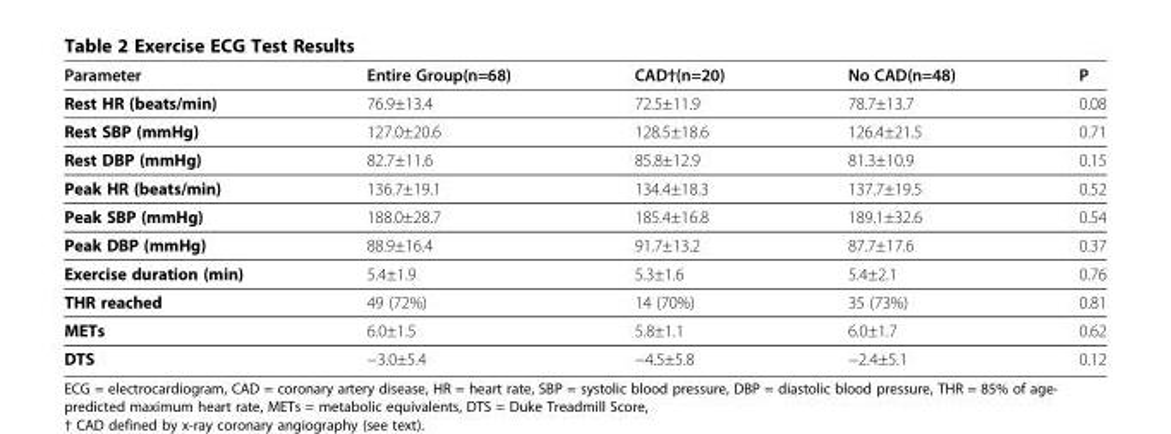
<table><thead><tr><td>Parameter</td><td>Entire Group(n=68)</td><td>CAD†(n=20)</td><td>No CAD(n=48)</td><td>P</td></tr></thead><tbody><tr><td>Rest HR (beats/min)</td><td>76.9±13.4</td><td>72.5±11.9</td><td>78.7±13.7</td><td>0.08</td></tr><tr><td>Rest SBP (mmHg)</td><td>127.0±20.6</td><td>128.5±18.6</td><td>126.4±21.5</td><td>0.71</td></tr><tr><td>Rest DBP (mmHg)</td><td>82.7±11.6</td><td>85.8±12.9</td><td>81.3±10.9</td><td>0.15</td></tr><tr><td>Peak HR (beats/min)</td><td>136.7±19.1</td><td>134.4±18.3</td><td>137.7±19.5</td><td>0.52</td></tr><tr><td>Peak SBP (mmHg)</td><td>188.0±28.7</td><td>185.4±16.8</td><td>189.1±32.6</td><td>0.54</td></tr><tr><td>Peak DBP (mmHg)</td><td>88.9±16.4</td><td>91.7±13.2</td><td>87.7±17.6</td><td>0.37</td></tr><tr><td>Exercise duration (min)</td><td>5.4±1.9</td><td>5.3±1.6</td><td>5.4±2.1</td><td>0.76</td></tr><tr><td>THR reached</td><td>49 (72%)</td><td>14 (70%)</td><td>35 (73%)</td><td>0.81</td></tr><tr><td>METs</td><td>6.0±1.5</td><td>5.8±1.1</td><td>6.0±1.7</td><td>0.62</td></tr><tr><td>DTS</td><td>−3.0±5.4</td><td>−4.5±5.8</td><td>−2.4±5.1</td><td>0.12</td></tr></tbody></table>